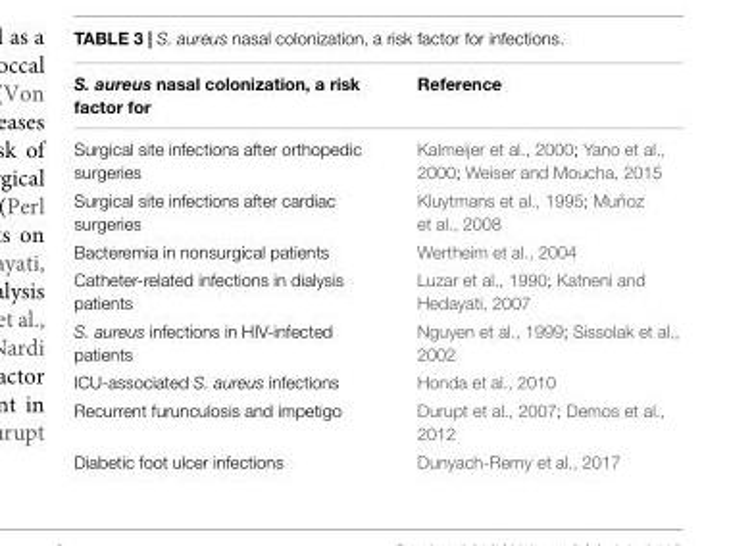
<table><thead><tr><td>S. aureus nasal colonization, a risk factor for</td><td>Reference</td></tr></thead><tbody><tr><td>Surgical site infections after orthopedic surgeries</td><td>Kalmeijer et al., 2000; Yano et al., 2000; Weiser and Moucha, 2015</td></tr><tr><td>Surgical site infections after cardiac surgeries</td><td>Kluytmans et al., 1995; Muñoz et al., 2008</td></tr><tr><td>Bacteremia in nonsurgical patients</td><td>Wertheim et al., 2004</td></tr><tr><td>Catheter-related infections in dialysis patients</td><td>Luzar et al., 1990; Katneni and Hedayati, 2007</td></tr><tr><td>S. aureus infections in HIV-infected patients</td><td>Nguyen et al., 1999; Sissolak et al., 2002</td></tr><tr><td>ICU-associated S. aureus infections</td><td>Honda et al., 2010</td></tr><tr><td>Recurrent furunculosis and impetigo</td><td>Durupt et al., 2007; Demos et al., 2012</td></tr><tr><td>Diabetic foot ulcer infections</td><td>Dunyach-Remy et al., 2017</td></tr></tbody></table>